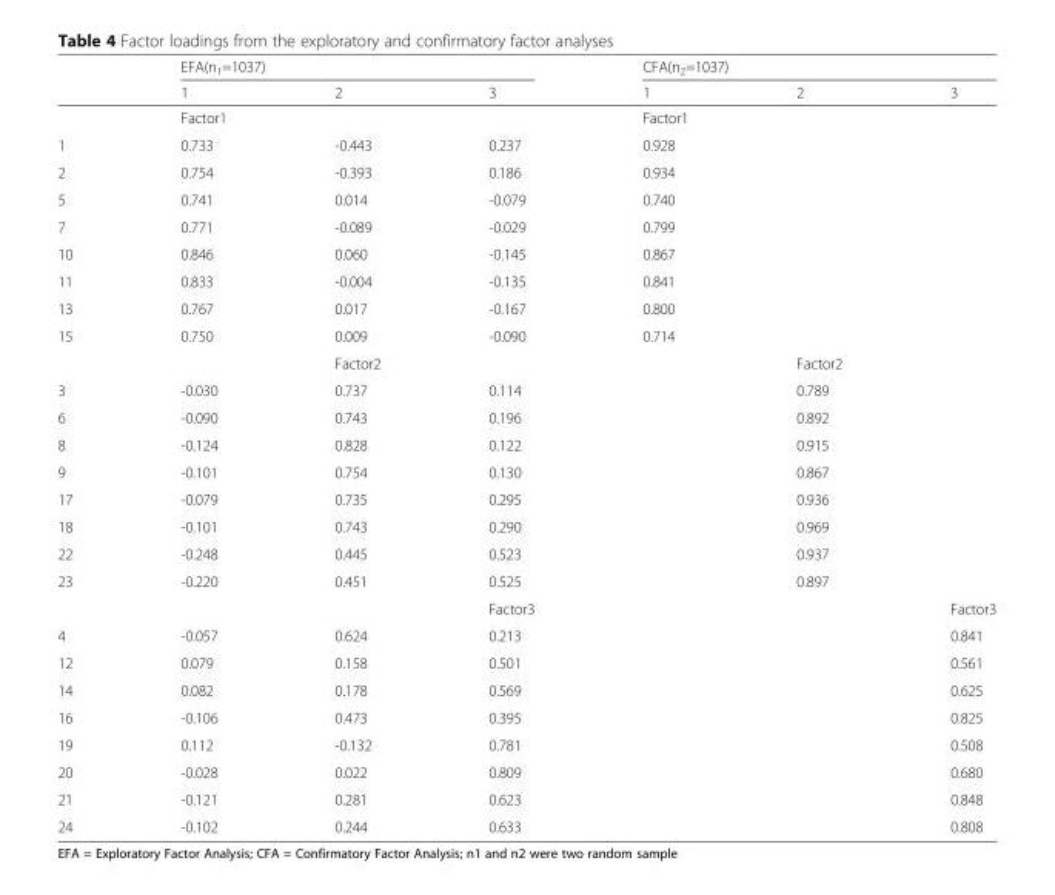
<table><thead><tr><td rowspan="2"></td><td colspan="3">EFA(n<sub>1</sub>=1037)</td><td colspan="3">CFA(n<sub>2</sub>=1037)</td></tr><tr><td>1</td><td>2</td><td>3</td><td>1</td><td>2</td><td>3</td></tr></thead><tbody><tr><td></td><td>Factor1</td><td></td><td></td><td>Factor1</td><td></td><td></td></tr><tr><td>1</td><td>0.733</td><td>-0.443</td><td>0.237</td><td>0.928</td><td></td><td></td></tr><tr><td>2</td><td>0.754</td><td>-0.393</td><td>0.186</td><td>0.934</td><td></td><td></td></tr><tr><td>5</td><td>0.741</td><td>0.014</td><td>-0.079</td><td>0.740</td><td></td><td></td></tr><tr><td>7</td><td>0.771</td><td>-0.089</td><td>-0.029</td><td>0.799</td><td></td><td></td></tr><tr><td>10</td><td>0.846</td><td>0.060</td><td>-0.145</td><td>0.867</td><td></td><td></td></tr><tr><td>11</td><td>0.833</td><td>-0.004</td><td>-0.135</td><td>0.841</td><td></td><td></td></tr><tr><td>13</td><td>0.767</td><td>0.017</td><td>-0.167</td><td>0.800</td><td></td><td></td></tr><tr><td rowspan="2">15</td><td>0.750</td><td>0.009</td><td>-0.090</td><td>0.714</td><td></td><td></td></tr><tr><td></td><td>Factor2</td><td></td><td></td><td>Factor2</td><td></td></tr><tr><td>3</td><td>-0.030</td><td>0.737</td><td>0.114</td><td></td><td>0.789</td><td></td></tr><tr><td>6</td><td>-0.090</td><td>0.743</td><td>0.196</td><td></td><td>0.892</td><td></td></tr><tr><td>8</td><td>-0.124</td><td>0.828</td><td>0.122</td><td></td><td>0.915</td><td></td></tr><tr><td>9</td><td>-0.101</td><td>0.754</td><td>0.130</td><td></td><td>0.867</td><td></td></tr><tr><td>17</td><td>-0.079</td><td>0.735</td><td>0.295</td><td></td><td>0.936</td><td></td></tr><tr><td>18</td><td>-0.101</td><td>0.743</td><td>0.290</td><td></td><td>0.969</td><td></td></tr><tr><td>22</td><td>-0.248</td><td>0.445</td><td>0.523</td><td></td><td>0.937</td><td></td></tr><tr><td rowspan="2">23</td><td>-0.220</td><td>0.451</td><td>0.525</td><td></td><td>0.897</td><td></td></tr><tr><td></td><td></td><td>Factor3</td><td></td><td></td><td>Factor3</td></tr><tr><td>4</td><td>-0.057</td><td>0.624</td><td>0.213</td><td></td><td></td><td>0.841</td></tr><tr><td>12</td><td>0.079</td><td>0.158</td><td>0.501</td><td></td><td></td><td>0.561</td></tr><tr><td>14</td><td>0.082</td><td>0.178</td><td>0.569</td><td></td><td></td><td>0.625</td></tr><tr><td>16</td><td>-0.106</td><td>0.473</td><td>0.395</td><td></td><td></td><td>0.825</td></tr><tr><td>19</td><td>0.112</td><td>-0.132</td><td>0.781</td><td></td><td></td><td>0.508</td></tr><tr><td>20</td><td>-0.028</td><td>0.022</td><td>0.809</td><td></td><td></td><td>0.680</td></tr><tr><td>21</td><td>-0.121</td><td>0.281</td><td>0.623</td><td></td><td></td><td>0.848</td></tr><tr><td>24</td><td>-0.102</td><td>0.244</td><td>0.633</td><td></td><td></td><td>0.808</td></tr></tbody></table>